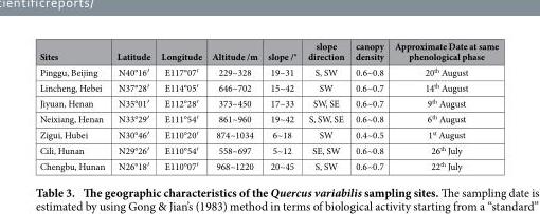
<table><thead><tr><td>Sites</td><td>Latitude</td><td>Longitude</td><td>Altitude /m</td><td>slope /°</td><td>slope direction</td><td>canopy density</td><td>Approximate Date at same phenological phase</td></tr></thead><tbody><tr><td>Pinggu, Beijing</td><td>N40°16′</td><td>E117°07′</td><td>229~328</td><td>19~31</td><td>S, SW</td><td>0.6~0.8</td><td>20<sup>th</sup> August</td></tr><tr><td>Lincheng, Hebei</td><td>N37°28′</td><td>E114°05′</td><td>646~702</td><td>15~42</td><td>SW</td><td>0.6~0.7</td><td>14<sup>th</sup> August</td></tr><tr><td>Jiyuan, Henan</td><td>N35°01′</td><td>E112°28′</td><td>373~450</td><td>17~33</td><td>SW, SE</td><td>0.6~0.7</td><td>9<sup>th</sup> August</td></tr><tr><td>Neixiang, Henan</td><td>N33°29′</td><td>E111°54′</td><td>861~960</td><td>19~42</td><td>S, SW, SE</td><td>0.6~0.8</td><td>6<sup>th</sup> August</td></tr><tr><td>Zigui, Hubei</td><td>N30°46′</td><td>E110°20′</td><td>874~1034</td><td>6~18</td><td>SW</td><td>0.4~0.5</td><td>1<sup>st</sup> August</td></tr><tr><td>Cili, Hunan</td><td>N29°26′</td><td>E110°54′</td><td>558~697</td><td>5~12</td><td>SE, SW</td><td>0.6~0.8</td><td>26<sup>th</sup> July</td></tr><tr><td>Chengbu, Hunan</td><td>N26°18′</td><td>E110°07′</td><td>968~1220</td><td>20~45</td><td>S, SW</td><td>0.6~0.7</td><td>22<sup>th</sup> July</td></tr></tbody></table>